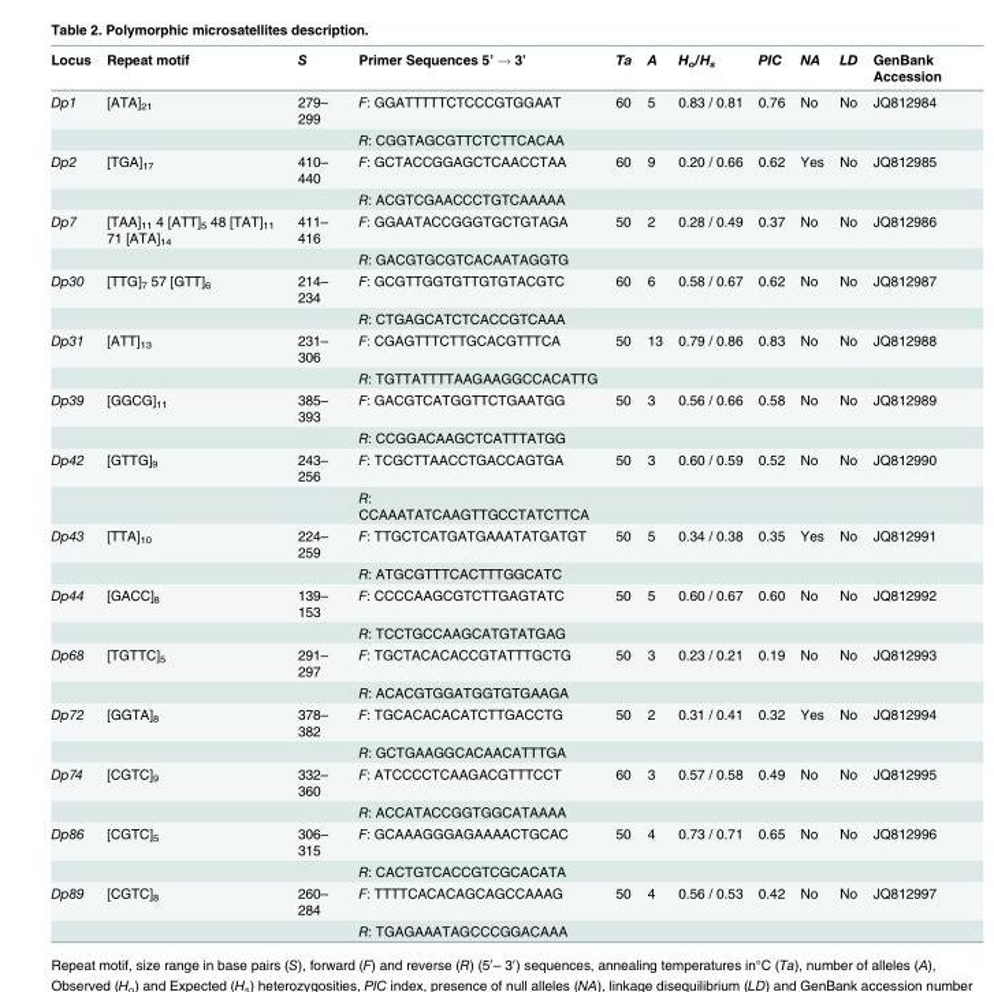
<table><thead><tr><td>Locus</td><td>Repeat motif</td><td>S</td><td>Primer Sequences 5’ → 3’</td><td>Ta</td><td>A</td><td>H<sub>o</sub>/H<sub>s</sub></td><td>PIC</td><td>NA</td><td>LD</td><td>GenBank Accession</td></tr></thead><tbody><tr><td rowspan="2">Dp1</td><td>[ATA]<sub>21</sub></td><td>279– 299</td><td>F: GGATTTTTCTCCCGTGGAAT</td><td>60</td><td>5</td><td>0.83 / 0.81</td><td>0.76</td><td>No</td><td>No</td><td>JQ812984</td></tr><tr><td></td><td></td><td>R: CGGTAGCGTTCTCTTCACAA</td><td></td><td></td><td></td><td></td><td></td><td></td><td></td></tr><tr><td rowspan="2">Dp2</td><td>[TGA]<sub>17</sub></td><td>410– 440</td><td>F: GCTACCGGAGCTCAACCTAA</td><td>60</td><td>9</td><td>0.20 / 0.66</td><td>0.62</td><td>Yes</td><td>No</td><td>JQ812985</td></tr><tr><td></td><td></td><td>R: ACGTCGAACCCTGTCAAAAA</td><td></td><td></td><td></td><td></td><td></td><td></td><td></td></tr><tr><td rowspan="2">Dp7</td><td>[TAA]<sub>11</sub> 4 [ATT]<sub>5</sub> 48 [TAT]<sub>11</sub> 71 [ATA]<sub>14</sub></td><td>411– 416</td><td>F: GGAATACCGGGTGCTGTAGA</td><td>50</td><td>2</td><td>0.28 / 0.49</td><td>0.37</td><td>No</td><td>No</td><td>JQ812986</td></tr><tr><td></td><td></td><td>R: GACGTGCGTCACAATAGGTG</td><td></td><td></td><td></td><td></td><td></td><td></td><td></td></tr><tr><td rowspan="2">Dp30</td><td>[TTG]<sub>7</sub> 57 [GTT]<sub>6</sub></td><td>214– 234</td><td>F: GCGTTGGTGTTGTGTACGTC</td><td>60</td><td>6</td><td>0.58 / 0.67</td><td>0.62</td><td>No</td><td>No</td><td>JQ812987</td></tr><tr><td></td><td></td><td>R: CTGAGCATCTCACCGTCAAA</td><td></td><td></td><td></td><td></td><td></td><td></td><td></td></tr><tr><td rowspan="2">Dp31</td><td>[ATT]<sub>13</sub></td><td>231– 306</td><td>F: CGAGTTTCTTGCACGTTTCA</td><td>50</td><td>13</td><td>0.79 / 0.86</td><td>0.83</td><td>No</td><td>No</td><td>JQ812988</td></tr><tr><td></td><td></td><td>R: TGTTATTTTAAGAAGGCCACATTG</td><td></td><td></td><td></td><td></td><td></td><td></td><td></td></tr><tr><td rowspan="2">Dp39</td><td>[GGCG]<sub>11</sub></td><td>385– 393</td><td>F: GACGTCATGGTTCTGAATGG</td><td>50</td><td>3</td><td>0.56 / 0.66</td><td>0.58</td><td>No</td><td>No</td><td>JQ812989</td></tr><tr><td></td><td></td><td>R: CCGGACAAGCTCATTTATGG</td><td></td><td></td><td></td><td></td><td></td><td></td><td></td></tr><tr><td rowspan="2">Dp42</td><td>[GTTG]<sub>9</sub></td><td>243– 256</td><td>F: TCGCTTAACCTGACCAGTGA</td><td>50</td><td>3</td><td>0.60 / 0.59</td><td>0.52</td><td>No</td><td>No</td><td>JQ812990</td></tr><tr><td></td><td></td><td>R: CCAAATATCAAGTTGCCTATCTTCA</td><td></td><td></td><td></td><td></td><td></td><td></td><td></td></tr><tr><td rowspan="2">Dp43</td><td>[TTA]<sub>10</sub></td><td>224– 259</td><td>F: TTGCTCATGATGAAATATGATGT</td><td>50</td><td>5</td><td>0.34 / 0.38</td><td>0.35</td><td>Yes</td><td>No</td><td>JQ812991</td></tr><tr><td></td><td></td><td>R: ATGCGTTTCACTTTGGCATC</td><td></td><td></td><td></td><td></td><td></td><td></td><td></td></tr><tr><td rowspan="2">Dp44</td><td>[GACC]<sub>8</sub></td><td>139– 153</td><td>F: CCCCAAGCGTCTTGAGTATC</td><td>50</td><td>5</td><td>0.60 / 0.67</td><td>0.60</td><td>No</td><td>No</td><td>JQ812992</td></tr><tr><td></td><td></td><td>R: TCCTGCCAAGCATGTATGAG</td><td></td><td></td><td></td><td></td><td></td><td></td><td></td></tr><tr><td rowspan="2">Dp68</td><td>[TGTTC]<sub>5</sub></td><td>291– 297</td><td>F: TGCTACACACCGTATTTGCTG</td><td>50</td><td>3</td><td>0.23 / 0.21</td><td>0.19</td><td>No</td><td>No</td><td>JQ812993</td></tr><tr><td></td><td></td><td>R: ACACGTGGATGGTGTGAAGA</td><td></td><td></td><td></td><td></td><td></td><td></td><td></td></tr><tr><td rowspan="2">Dp72</td><td>[GGTA]<sub>8</sub></td><td>378– 382</td><td>F: TGCACACACATCTTGACCTG</td><td>50</td><td>2</td><td>0.31 / 0.41</td><td>0.32</td><td>Yes</td><td>No</td><td>JQ812994</td></tr><tr><td></td><td></td><td>R: GCTGAAGGCACAACATTTGA</td><td></td><td></td><td></td><td></td><td></td><td></td><td></td></tr><tr><td rowspan="2">Dp74</td><td>[CGTC]<sub>9</sub></td><td>332– 360</td><td>F: ATCCCCTCAAGACGTTTCCT</td><td>60</td><td>3</td><td>0.57 / 0.58</td><td>0.49</td><td>No</td><td>No</td><td>JQ812995</td></tr><tr><td></td><td></td><td>R: ACCATACCGGTGGCATAAAA</td><td></td><td></td><td></td><td></td><td></td><td></td><td></td></tr><tr><td rowspan="2">Dp86</td><td>[CGTC]<sub>5</sub></td><td>306– 315</td><td>F: GCAAAGGGAGAAAACTGCAC</td><td>50</td><td>4</td><td>0.73 / 0.71</td><td>0.65</td><td>No</td><td>No</td><td>JQ812996</td></tr><tr><td></td><td></td><td>R: CACTGTCACCGTCGCACATA</td><td></td><td></td><td></td><td></td><td></td><td></td><td></td></tr><tr><td rowspan="2">Dp89</td><td>[CGTC]<sub>8</sub></td><td>260– 284</td><td>F: TTTTCACACAGCAGCCAAAG</td><td>50</td><td>4</td><td>0.56 / 0.53</td><td>0.42</td><td>No</td><td>No</td><td>JQ812997</td></tr><tr><td></td><td></td><td>R: TGAGAAATAGCCCGGACAAA</td><td></td><td></td><td></td><td></td><td></td><td></td><td></td></tr></tbody></table>